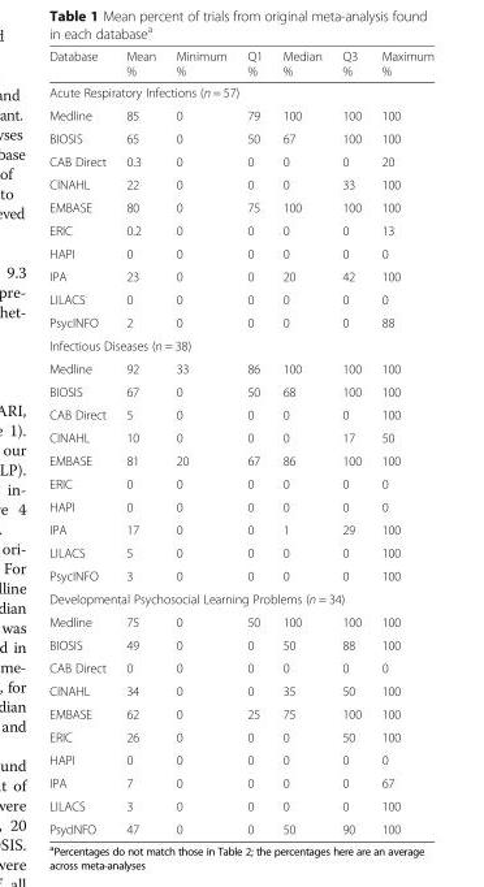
<table><thead><tr><td>Database</td><td>Mean %</td><td>Minimum %</td><td>Q1 %</td><td>Median %</td><td>Q3 %</td><td>Maximum %</td></tr></thead><tbody><tr><td colspan="7">Acute Respiratory Infections (n = 57)</td></tr><tr><td>Medline</td><td>85</td><td>0</td><td>79</td><td>100</td><td>100</td><td>100</td></tr><tr><td>BIOSIS</td><td>65</td><td>0</td><td>50</td><td>67</td><td>100</td><td>100</td></tr><tr><td>CAB Direct</td><td>0.3</td><td>0</td><td>0</td><td>0</td><td>0</td><td>20</td></tr><tr><td>CINAHL</td><td>22</td><td>0</td><td>0</td><td>0</td><td>33</td><td>100</td></tr><tr><td>EMBASE</td><td>80</td><td>0</td><td>75</td><td>100</td><td>100</td><td>100</td></tr><tr><td>ERIC</td><td>0.2</td><td>0</td><td>0</td><td>0</td><td>0</td><td>13</td></tr><tr><td>HAPI</td><td>0</td><td>0</td><td>0</td><td>0</td><td>0</td><td>0</td></tr><tr><td>IPA</td><td>23</td><td>0</td><td>0</td><td>20</td><td>42</td><td>100</td></tr><tr><td>LILACS</td><td>0</td><td>0</td><td>0</td><td>0</td><td>0</td><td>0</td></tr><tr><td>PsycINFO</td><td>2</td><td>0</td><td>0</td><td>0</td><td>0</td><td>88</td></tr><tr><td colspan="7">Infectious Diseases (n = 38)</td></tr><tr><td>Medline</td><td>92</td><td>33</td><td>86</td><td>100</td><td>100</td><td>100</td></tr><tr><td>BIOSIS</td><td>67</td><td>0</td><td>50</td><td>68</td><td>100</td><td>100</td></tr><tr><td>CAB Direct</td><td>5</td><td>0</td><td>0</td><td>0</td><td>0</td><td>100</td></tr><tr><td>CINAHL</td><td>10</td><td>0</td><td>0</td><td>0</td><td>17</td><td>50</td></tr><tr><td>EMBASE</td><td>81</td><td>20</td><td>67</td><td>86</td><td>100</td><td>100</td></tr><tr><td>ERIC</td><td>0</td><td>0</td><td>0</td><td>0</td><td>0</td><td>0</td></tr><tr><td>HAPI</td><td>0</td><td>0</td><td>0</td><td>0</td><td>0</td><td>0</td></tr><tr><td>IPA</td><td>17</td><td>0</td><td>0</td><td>1</td><td>29</td><td>100</td></tr><tr><td>LILACS</td><td>5</td><td>0</td><td>0</td><td>0</td><td>0</td><td>100</td></tr><tr><td>PsycINFO</td><td>3</td><td>0</td><td>0</td><td>0</td><td>0</td><td>100</td></tr><tr><td colspan="7">Developmental Psychosocial Learning Problems (n = 34)</td></tr><tr><td>Medline</td><td>75</td><td>0</td><td>50</td><td>100</td><td>100</td><td>100</td></tr><tr><td>BIOSIS</td><td>49</td><td>0</td><td>0</td><td>50</td><td>88</td><td>100</td></tr><tr><td>CAB Direct</td><td>0</td><td>0</td><td>0</td><td>0</td><td>0</td><td>0</td></tr><tr><td>CINAHL</td><td>34</td><td>0</td><td>0</td><td>35</td><td>50</td><td>100</td></tr><tr><td>EMBASE</td><td>62</td><td>0</td><td>25</td><td>75</td><td>100</td><td>100</td></tr><tr><td>ERIC</td><td>26</td><td>0</td><td>0</td><td>0</td><td>50</td><td>100</td></tr><tr><td>HAPI</td><td>0</td><td>0</td><td>0</td><td>0</td><td>0</td><td>0</td></tr><tr><td>IPA</td><td>7</td><td>0</td><td>0</td><td>0</td><td>0</td><td>67</td></tr><tr><td>LILACS</td><td>3</td><td>0</td><td>0</td><td>0</td><td>0</td><td>100</td></tr><tr><td>PsycINFO</td><td>47</td><td>0</td><td>0</td><td>50</td><td>90</td><td>100</td></tr></tbody></table>